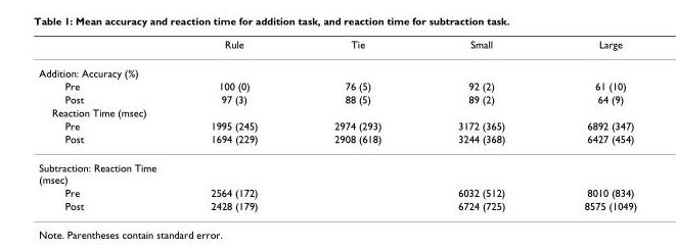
<table><thead><tr><td></td><td>Rule</td><td>Tie</td><td>Small</td><td>Large</td></tr></thead><tbody><tr><td colspan="5">Addition: Accuracy (%)</td></tr><tr><td>Pre</td><td>100 (0)</td><td>76 (5)</td><td>92 (2)</td><td>61 (10)</td></tr><tr><td>Post</td><td>97 (3)</td><td>88 (5)</td><td>89 (2)</td><td>64 (9)</td></tr><tr><td colspan="5">Reaction Time (msec)</td></tr><tr><td>Pre</td><td>1995 (245)</td><td>2974 (293)</td><td>3172 (365)</td><td>6892 (347)</td></tr><tr><td>Post</td><td>1694 (229)</td><td>2908 (618)</td><td>3244 (368)</td><td>6427 (454)</td></tr><tr><td colspan="5">Subtraction: Reaction Time (msec)</td></tr><tr><td>Pre</td><td>2564 (172)</td><td></td><td>6032 (512)</td><td>8010 (834)</td></tr><tr><td>Post</td><td>2428 (179)</td><td></td><td>6724 (725)</td><td>8575 (1049)</td></tr></tbody></table>